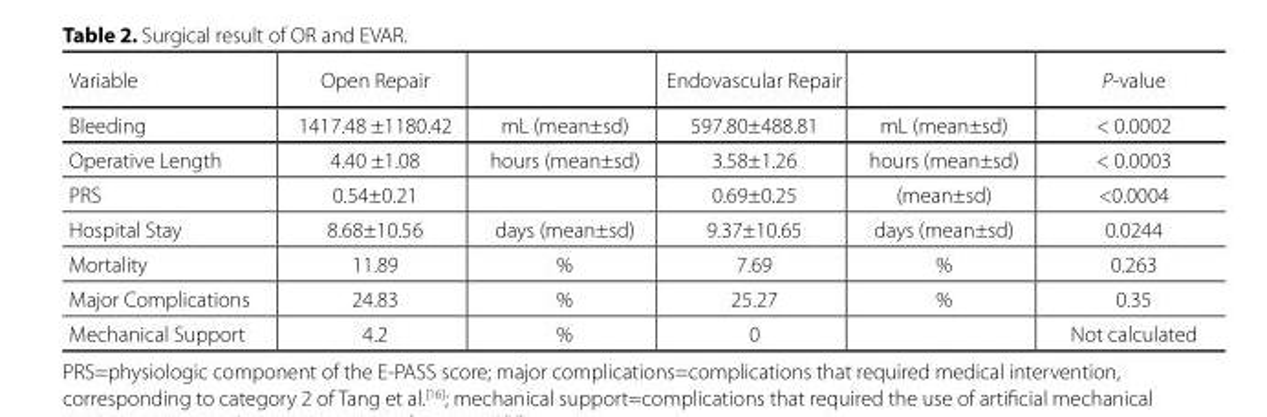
<table><thead><tr><td rowspan="2">Variable Bleeding</td><td rowspan="2">Open Repair 1417.48 ±1180.42</td><td rowspan="2">mL (mean±sd)</td><td rowspan="2">Endovascular Repair 597.80±488.81</td><td rowspan="2">mL (mean±sd)</td><td rowspan="2">P-value &lt; 0.0002</td></tr><tr></tr></thead><tbody><tr><td>Operative Length</td><td>4.40 ±1.08</td><td>hours (mean±sd)</td><td>3.58±1.26</td><td>hours (mean±sd)</td><td>&lt; 0.0003</td></tr><tr><td>PRS</td><td>0.54±0.21</td><td></td><td>0.69±0.25</td><td>(mean±sd)</td><td>&lt;0.0004</td></tr><tr><td>Hospital Stay</td><td>8.68±10.56</td><td>days (mean±sd)</td><td>9.37±10.65</td><td>days (mean±sd)</td><td>0.0244</td></tr><tr><td>Mortality</td><td>11.89</td><td>%</td><td>7.69</td><td>%</td><td>0.263</td></tr><tr><td>Major Complications</td><td>24.83</td><td>%</td><td>25.27</td><td>%</td><td>0.35</td></tr><tr><td>Mechanical Support</td><td>4.2</td><td>%</td><td>0</td><td></td><td>Not calculated</td></tr></tbody></table>